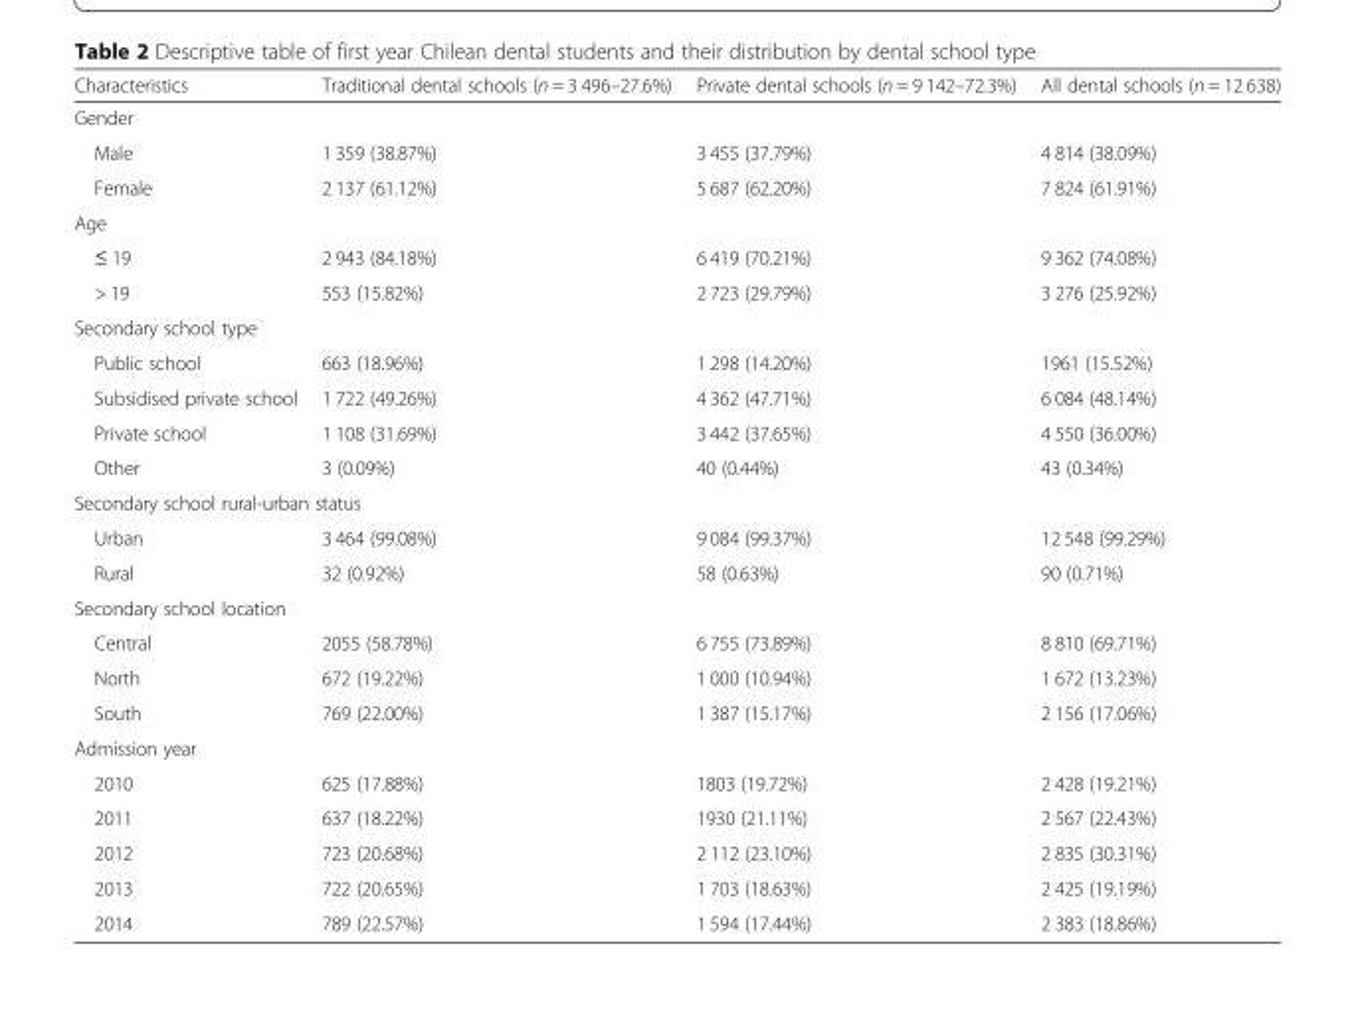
<table><thead><tr><td>Characteristics</td><td>Traditional dental schools (n = 3 496–27.6%)</td><td>Private dental schools (n = 9 142–72.3%)</td><td>All dental schools (n = 12 638)</td></tr></thead><tbody><tr><td colspan="4">Gender</td></tr><tr><td>Male</td><td>1 359 (38.87%)</td><td>3 455 (37.79%)</td><td>4 814 (38.09%)</td></tr><tr><td>Female</td><td>2 137 (61.12%)</td><td>5 687 (62.20%)</td><td>7 824 (61.91%)</td></tr><tr><td colspan="4">Age</td></tr><tr><td>≤ 19</td><td>2 943 (84.18%)</td><td>6 419 (70.21%)</td><td>9 362 (74.08%)</td></tr><tr><td>&gt; 19</td><td>553 (15.82%)</td><td>2 723 (29.79%)</td><td>3 276 (25.92%)</td></tr><tr><td colspan="4">Secondary school type</td></tr><tr><td>Public school</td><td>663 (18.96%)</td><td>1 298 (14.20%)</td><td>1961 (15.52%)</td></tr><tr><td>Subsidised private school</td><td>1 722 (49.26%)</td><td>4 362 (47.71%)</td><td>6 084 (48.14%)</td></tr><tr><td>Private school</td><td>1 108 (31.69%)</td><td>3 442 (37.65%)</td><td>4 550 (36.00%)</td></tr><tr><td>Other</td><td>3 (0.09%)</td><td>40 (0.44%)</td><td>43 (0.34%)</td></tr><tr><td colspan="4">Secondary school rural-urban status</td></tr><tr><td>Urban</td><td>3 464 (99.08%)</td><td>9 084 (99.37%)</td><td>12 548 (99.29%)</td></tr><tr><td>Rural</td><td>32 (0.92%)</td><td>58 (0.63%)</td><td>90 (0.71%)</td></tr><tr><td colspan="4">Secondary school location</td></tr><tr><td>Central</td><td>2055 (58.78%)</td><td>6 755 (73.89%)</td><td>8 810 (69.71%)</td></tr><tr><td>North</td><td>672 (19.22%)</td><td>1 000 (10.94%)</td><td>1 672 (13.23%)</td></tr><tr><td>South</td><td>769 (22.00%)</td><td>1 387 (15.17%)</td><td>2 156 (17.06%)</td></tr><tr><td colspan="4">Admission year</td></tr><tr><td>2010</td><td>625 (17.88%)</td><td>1803 (19.72%)</td><td>2 428 (19.21%)</td></tr><tr><td>2011</td><td>637 (18.22%)</td><td>1930 (21.11%)</td><td>2 567 (22.43%)</td></tr><tr><td>2012</td><td>723 (20.68%)</td><td>2 112 (23.10%)</td><td>2 835 (30.31%)</td></tr><tr><td>2013</td><td>722 (20.65%)</td><td>1 703 (18.63%)</td><td>2 425 (19.19%)</td></tr><tr><td>2014</td><td>789 (22.57%)</td><td>1 594 (17.44%)</td><td>2 383 (18.86%)</td></tr></tbody></table>